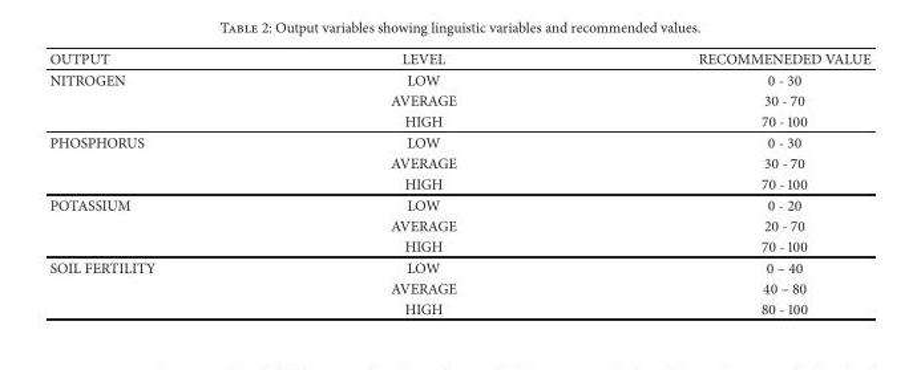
<table><thead><tr><td>OUTPUT</td><td>LEVEL</td><td>RECOMMENEDED VALUE</td></tr></thead><tbody><tr><td rowspan="3">NITROGEN</td><td>LOW</td><td>0 - 30</td></tr><tr><td>AVERAGE</td><td>30 - 70</td></tr><tr><td>HIGH</td><td>70 - 100</td></tr><tr><td rowspan="3">PHOSPHORUS</td><td>LOW</td><td>0 - 30</td></tr><tr><td>AVERAGE</td><td>30 - 70</td></tr><tr><td>HIGH</td><td>70 - 100</td></tr><tr><td rowspan="3">POTASSIUM</td><td>LOW</td><td>0 - 20</td></tr><tr><td>AVERAGE</td><td>20 - 70</td></tr><tr><td>HIGH</td><td>70 - 100</td></tr><tr><td rowspan="3">SOIL FERTILITY</td><td>LOW</td><td>0 – 40</td></tr><tr><td>AVERAGE</td><td>40 – 80</td></tr><tr><td>HIGH</td><td>80 - 100</td></tr></tbody></table>